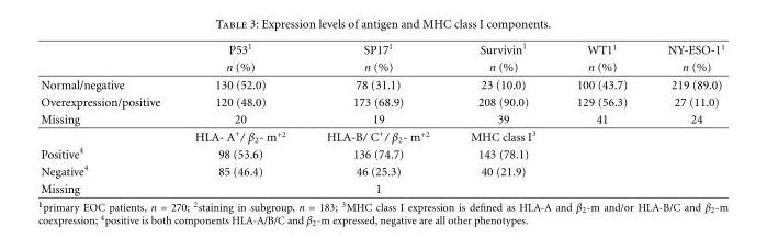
<table><thead><tr><td rowspan="2"></td><td rowspan="2">P53<sup>1</sup> n (%)</td><td rowspan="2">SP17<sup>1</sup> n (%)</td><td rowspan="2">Survivin<sup>1</sup> n (%)</td><td rowspan="2">WT1<sup>1</sup> n (%)</td><td rowspan="2">NY-ESO-1<sup>1</sup> n (%)</td></tr><tr></tr></thead><tbody><tr><td>Normal/negative</td><td>130 (52.0)</td><td>78 (31.1)</td><td>23 (10.0)</td><td>100 (43.7)</td><td>219 (89.0)</td></tr><tr><td>Overexpression/positive</td><td>120 (48.0)</td><td>173 (68.9)</td><td>208 (90.0)</td><td>129 (56.3)</td><td>27 (11.0)</td></tr><tr><td rowspan="2">Missing</td><td>20</td><td>19</td><td>39</td><td>41</td><td>24</td></tr><tr><td>HLA- A<sup>+</sup>/ β<sub>2</sub>- m<sup>+2</sup></td><td>HLA-B/ C<sup>+</sup>/ β<sub>2</sub>- m<sup>+2</sup></td><td>MHC class I<sup>3</sup></td><td></td><td></td></tr><tr><td>Positive<sup>4</sup></td><td>98 (53.6)</td><td>136 (74.7)</td><td>143 (78.1)</td><td></td><td></td></tr><tr><td>Negative<sup>4</sup></td><td>85 (46.4)</td><td>46 (25.3)</td><td>40 (21.9)</td><td></td><td></td></tr><tr><td>Missing</td><td></td><td>1</td><td></td><td></td><td></td></tr></tbody></table>